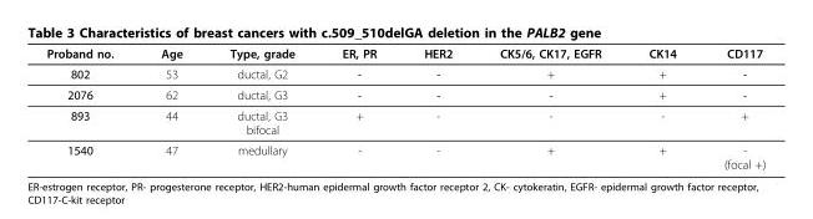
<table><thead><tr><td>Proband no.</td><td>Age</td><td>Type, grade</td><td>ER, PR</td><td>HER2</td><td>CK5/6, CK17, EGFR</td><td>CK14</td><td>CD117</td></tr></thead><tbody><tr><td>802</td><td>53</td><td>ductal, G2</td><td>-</td><td>-</td><td>+</td><td>+</td><td>-</td></tr><tr><td>2076</td><td>62</td><td>ductal, G3</td><td>-</td><td>-</td><td>-</td><td>+</td><td>-</td></tr><tr><td>893</td><td>44</td><td>ductal, G3 bifocal</td><td>+</td><td>-</td><td>-</td><td>-</td><td>+</td></tr><tr><td>1540</td><td>47</td><td>medullary</td><td>-</td><td>-</td><td>+</td><td>+</td><td>- (focal +)</td></tr></tbody></table>